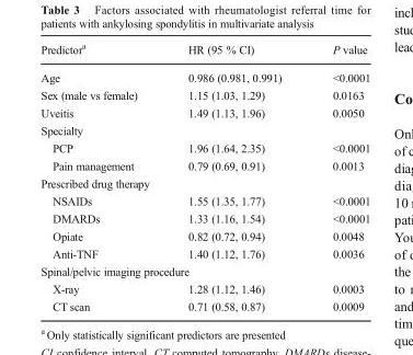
<table><thead><tr><td>Predictor<sup>a</sup></td><td>HR (95 % CI)</td><td>P value</td></tr></thead><tbody><tr><td>Age</td><td>0.986 (0.981, 0.991)</td><td>&lt;0.0001</td></tr><tr><td>Sex (male vs female)</td><td>1.15 (1.03, 1.29)</td><td>0.0163</td></tr><tr><td>Uveitis</td><td>1.49 (1.13, 1.96)</td><td>0.0050</td></tr><tr><td colspan="3">Specialty</td></tr><tr><td>PCP</td><td>1.96 (1.64, 2.35)</td><td>&lt;0.0001</td></tr><tr><td>Pain management</td><td>0.79 (0.69, 0.91)</td><td>0.0013</td></tr><tr><td colspan="3">Prescribed drug therapy</td></tr><tr><td>NSAIDs</td><td>1.55 (1.35, 1.77)</td><td>&lt;0.0001</td></tr><tr><td>DMARDs</td><td>1.33 (1.16, 1.54)</td><td>&lt;0.0001</td></tr><tr><td>Opiate</td><td>0.82 (0.72, 0.94)</td><td>0.0048</td></tr><tr><td>Anti-TNF</td><td>1.40 (1.12, 1.76)</td><td>0.0036</td></tr><tr><td colspan="3">Spinal/pelvic imaging procedure</td></tr><tr><td>X-ray</td><td>1.28 (1.12, 1.46)</td><td>0.0003</td></tr><tr><td>CT scan</td><td>0.71 (0.58, 0.87)</td><td>0.0009</td></tr></tbody></table>